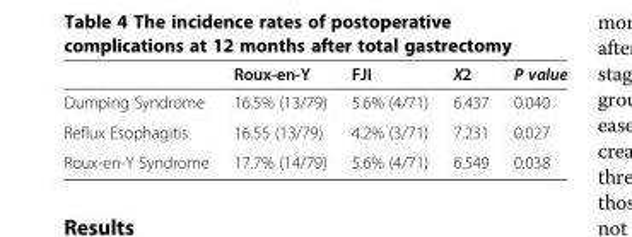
<table><thead><tr><td></td><td>Roux-en-Y</td><td>FJI</td><td>Χ2</td><td>P value</td></tr></thead><tbody><tr><td>Dumping Syndrome</td><td>16.5% (13/79)</td><td>5.6% (4/71)</td><td>6.437</td><td>0.040</td></tr><tr><td>Reflux Esophagitis</td><td>16.55 (13/79)</td><td>4.2% (3/71)</td><td>7.231</td><td>0.027</td></tr><tr><td>Roux-en-Y Syndrome</td><td>17.7% (14/79)</td><td>5.6% (4/71)</td><td>6.549</td><td>0.038</td></tr></tbody></table>